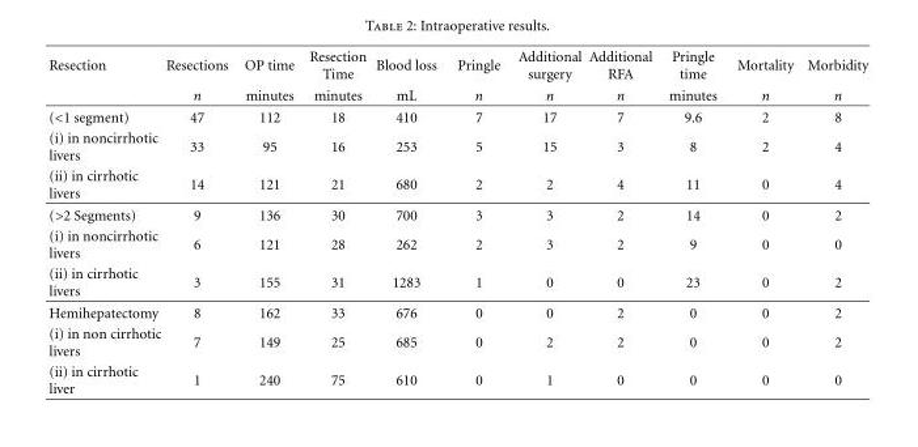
<table><thead><tr><td rowspan="2">Resection</td><td rowspan="2">Resections n</td><td rowspan="2">OP time minutes</td><td rowspan="2">Resection Time minutes</td><td rowspan="2">Blood loss mL</td><td rowspan="2">Pringle n</td><td rowspan="2">Additional surgery n</td><td rowspan="2">Additional RFA n</td><td rowspan="2">Pringle time minutes</td><td rowspan="2">Mortality n</td><td rowspan="2">Morbidity n</td></tr><tr></tr></thead><tbody><tr><td>(&lt;1 segment)</td><td>47</td><td>112</td><td>18</td><td>410</td><td>7</td><td>17</td><td>7</td><td>9.6</td><td>2</td><td>8</td></tr><tr><td>(i) in noncirrhotic livers</td><td>33</td><td>95</td><td>16</td><td>253</td><td>5</td><td>15</td><td>3</td><td>8</td><td>2</td><td>4</td></tr><tr><td>(ii) in cirrhotic livers</td><td>14</td><td>121</td><td>21</td><td>680</td><td>2</td><td>2</td><td>4</td><td>11</td><td>0</td><td>4</td></tr><tr><td>(&gt;2 Segments)</td><td>9</td><td>136</td><td>30</td><td>700</td><td>3</td><td>3</td><td>2</td><td>14</td><td>0</td><td>2</td></tr><tr><td>(i) in noncirrhotic livers</td><td>6</td><td>121</td><td>28</td><td>262</td><td>2</td><td>3</td><td>2</td><td>9</td><td>0</td><td>0</td></tr><tr><td>(ii) in cirrhotic livers</td><td>3</td><td>155</td><td>31</td><td>1283</td><td>1</td><td>0</td><td>0</td><td>23</td><td>0</td><td>2</td></tr><tr><td>Hemihepatectomy</td><td>8</td><td>162</td><td>33</td><td>676</td><td>0</td><td>0</td><td>2</td><td>0</td><td>0</td><td>2</td></tr><tr><td>(i) in non cirrhotic livers</td><td>7</td><td>149</td><td>25</td><td>685</td><td>0</td><td>2</td><td>2</td><td>0</td><td>0</td><td>2</td></tr><tr><td>(ii) in cirrhotic liver</td><td>1</td><td>240</td><td>75</td><td>610</td><td>0</td><td>1</td><td>0</td><td>0</td><td>0</td><td>0</td></tr></tbody></table>